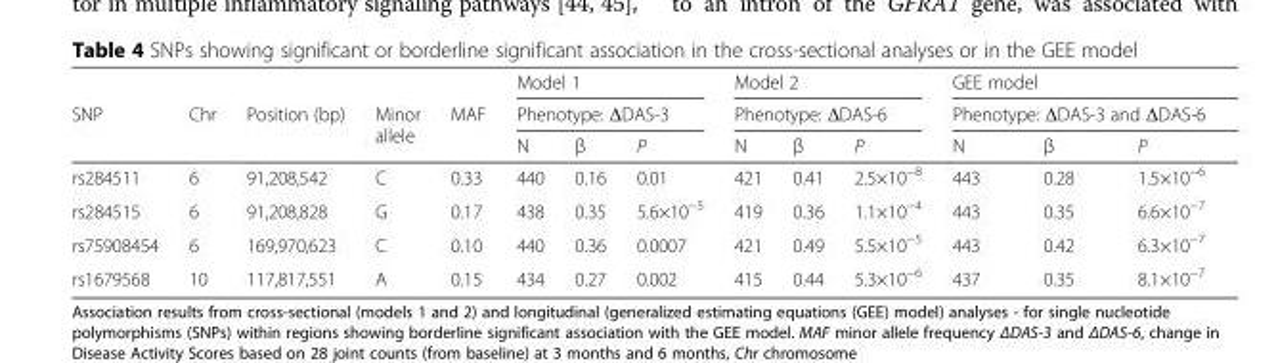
<table><thead><tr><td rowspan="3">SNP</td><td rowspan="3">Chr</td><td rowspan="3">Position (bp)</td><td rowspan="3">Minor allele</td><td rowspan="3">MAF</td><td rowspan="2" colspan="3">Model 1 Phenotype: ΔDAS-3</td><td rowspan="2" colspan="3">Model 2 Phenotype: ΔDAS-6</td><td rowspan="2" colspan="3">GEE model Phenotype: ΔDAS-3 and ΔDAS-6</td></tr><tr></tr><tr><td>N</td><td>β</td><td>P</td><td>N</td><td>β</td><td>P</td><td>N</td><td>β</td><td>P</td></tr></thead><tbody><tr><td>rs284511</td><td>6</td><td>91,208,542</td><td>C</td><td>0.33</td><td>440</td><td>0.16</td><td>0.01</td><td>421</td><td>0.41</td><td>2.5×10<sup>−8</sup></td><td>443</td><td>0.28</td><td>1.5×10<sup>−6</sup></td></tr><tr><td>rs284515</td><td>6</td><td>91,208,828</td><td>G</td><td>0.17</td><td>438</td><td>0.35</td><td>5.6×10<sup>−5</sup></td><td>419</td><td>0.36</td><td>1.1×10<sup>−4</sup></td><td>443</td><td>0.35</td><td>6.6×10<sup>−7</sup></td></tr><tr><td>rs75908454</td><td>6</td><td>169,970,623</td><td>C</td><td>0.10</td><td>440</td><td>0.36</td><td>0.0007</td><td>421</td><td>0.49</td><td>5.5×10<sup>−5</sup></td><td>443</td><td>0.42</td><td>6.3×10<sup>−7</sup></td></tr><tr><td>rs1679568</td><td>10</td><td>117,817,551</td><td>A</td><td>0.15</td><td>434</td><td>0.27</td><td>0.002</td><td>415</td><td>0.44</td><td>5.3×10<sup>−6</sup></td><td>437</td><td>0.35</td><td>8.1×10<sup>−7</sup></td></tr></tbody></table>